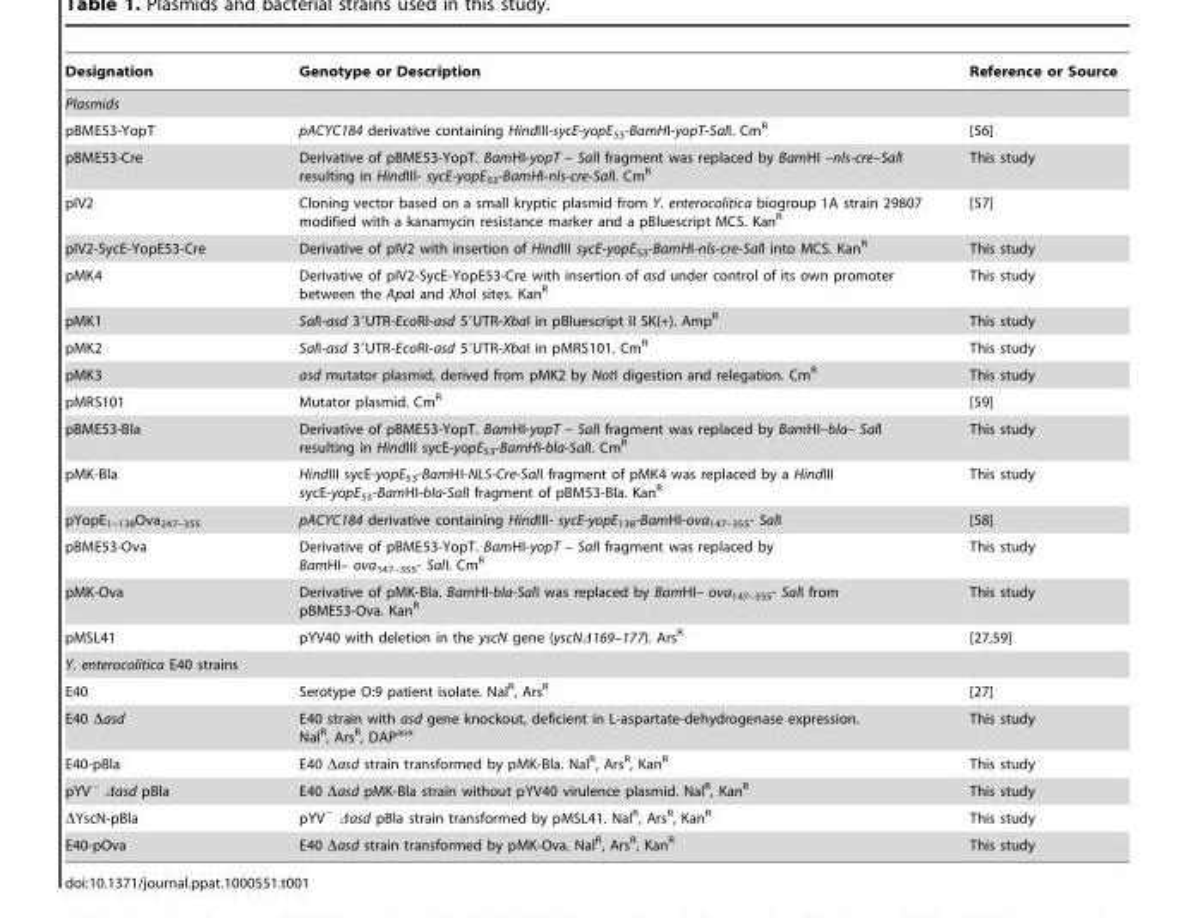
<table><thead><tr><td>Designation</td><td>Genotype or Description</td><td>Reference or Source</td></tr></thead><tbody><tr><td colspan="3">Plasmids</td></tr><tr><td>pBME53-YopT</td><td>pACYC184 derivative containing HindIII-sycE-yopE<sub>53</sub>-BamHI-yopT-SalI. Cm<sup>R</sup></td><td>[56]</td></tr><tr><td>pBME53-Cre</td><td>Derivative of pBME53-YopT. BamHI-yopT – SalI fragment was replaced by BamHI –nls-cre–SalI resulting in HindIII- sycE-yopE<sub>53</sub>-BamHI-nls-cre-SalI. Cm<sup>R</sup></td><td>This study</td></tr><tr><td>pIV2</td><td>Cloning vector based on a small kryptic plasmid from Y. enterocolitica biogroup 1A strain 29807 modified with a kanamycin resistance marker and a pBluescript MCS. Kan<sup>R</sup></td><td>[57]</td></tr><tr><td>pIV2-SycE-YopE53-Cre</td><td>Derivative of pIV2 with insertion of HindIII sycE-yopE<sub>53</sub>-BamHI-nls-cre-SalI into MCS. Kan<sup>R</sup></td><td>This study</td></tr><tr><td>pMK4</td><td>Derivative of pIV2-SycE-YopE53-Cre with insertion of asd under control of its own promoter between the ApaI and XhoI sites. Kan<sup>R</sup></td><td>This study</td></tr><tr><td>pMK1</td><td>SalI-asd 3′UTR-EcoRI-asd 5′UTR-XbaI in pBluescript II SK(+). Amp<sup>R</sup></td><td>This study</td></tr><tr><td>pMK2</td><td>SalI-asd 3′UTR-EcoRI-asd 5′UTR-XbaI in pMRS101. Cm<sup>R</sup></td><td>This study</td></tr><tr><td>pMK3</td><td>asd mutator plasmid, derived from pMK2 by NotI digestion and relegation. Cm<sup>R</sup></td><td>This study</td></tr><tr><td>pMRS101</td><td>Mutator plasmid. Cm<sup>R</sup></td><td>[59]</td></tr><tr><td>pBME53-Bla</td><td>Derivative of pBME53-YopT. BamHI-yopT – SalI fragment was replaced by BamHI–bla– SalI resulting in HindIII sycE-yopE<sub>53</sub>-BamHI-bla-SalI. Cm<sup>R</sup></td><td>This study</td></tr><tr><td>pMK-Bla</td><td>HindIII sycE-yopE<sub>53</sub>-BamHI-NLS-Cre-SalI fragment of pMK4 was replaced by a HindIII sycE-yopE<sub>53</sub>-BamHI-bla-SalI fragment of pBM53-Bla. Kan<sup>R</sup></td><td>This study</td></tr><tr><td>pYopE<sub>1–138</sub>Ova<sub>247–355</sub></td><td>pACYC184 derivative containing HindIII- sycE-yopE<sub>138</sub>-BamHI-ova<sub>147–355</sub>- SalI</td><td>[58]</td></tr><tr><td>pBME53-Ova</td><td>Derivative of pBME53-YopT. BamHI-yopT – SalI fragment was replaced by BamHI– ova<sub>147–355</sub>- SalI. Cm<sup>R</sup></td><td>This study</td></tr><tr><td>pMK-Ova</td><td>Derivative of pMK-Bla. BamHI-bla-SalI was replaced by BamHI– ova<sub>147–355</sub>- SalI from pBME53-Ova. Kan<sup>R</sup></td><td>This study</td></tr><tr><td>pMSL41</td><td>pYV40 with deletion in the yscN gene (yscNΔ169–177). Ars<sup>R</sup></td><td>[27,59]</td></tr><tr><td colspan="3">Y. enterocolitica E40 strains</td></tr><tr><td>E40</td><td>Serotype O:9 patient isolate. Nal<sup>R</sup>, Ars<sup>R</sup></td><td>[27]</td></tr><tr><td>E40 Δasd</td><td>E40 strain with asd gene knockout, deficient in L-aspartate-dehydrogenase expression. Nal<sup>R</sup>, Ars<sup>R</sup>, DAP<sup>aux</sup></td><td>This study</td></tr><tr><td>E40-pBla</td><td>E40 Δasd strain transformed by pMK-Bla. Nal<sup>R</sup>, Ars<sup>R</sup>, Kan<sup>R</sup></td><td>This study</td></tr><tr><td>pYV<sup>−</sup> Δasd pBla</td><td>E40 Δasd pMK-Bla strain without pYV40 virulence plasmid. Nal<sup>R</sup>, Kan<sup>R</sup></td><td>This study</td></tr><tr><td>ΔYscN-pBla</td><td>pYV<sup>−</sup> Δasd pBla strain transformed by pMSL41. Nal<sup>R</sup>, Ars<sup>R</sup>, Kan<sup>R</sup></td><td>This study</td></tr><tr><td>E40-pOva</td><td>E40 Δasd strain transformed by pMK-Ova. Nal<sup>R</sup>, Ars<sup>R</sup>, Kan<sup>R</sup></td><td>This study</td></tr></tbody></table>